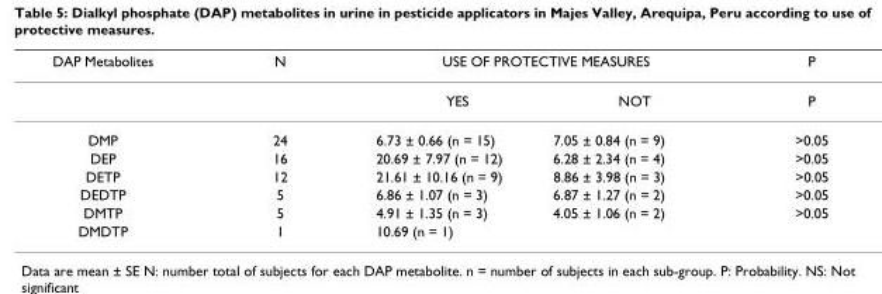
<table><thead><tr><td rowspan="2">DAP Metabolites</td><td rowspan="2">N</td><td colspan="2">USE OF PROTECTIVE MEASURES</td><td rowspan="2">P P</td></tr><tr><td>YES</td><td>NOT</td></tr></thead><tbody><tr><td>DMP</td><td>24</td><td>6.73 ± 0.66 (n = 15)</td><td>7.05 ± 0.84 (n = 9)</td><td>&gt;0.05</td></tr><tr><td>DEP</td><td>16</td><td>20.69 ± 7.97 (n = 12)</td><td>6.28 ± 2.34 (n = 4)</td><td>&gt;0.05</td></tr><tr><td>DETP</td><td>12</td><td>21.61 ± 10.16 (n = 9)</td><td>8.86 ± 3.98 (n = 3)</td><td>&gt;0.05</td></tr><tr><td>DEDTP</td><td>5</td><td>6.86 ± 1.07 (n = 3)</td><td>6.87 ± 1.27 (n = 2)</td><td>&gt;0.05</td></tr><tr><td>DMTP</td><td>5</td><td>4.91 ± 1.35 (n = 3)</td><td>4.05 ± 1.06 (n = 2)</td><td>&gt;0.05</td></tr><tr><td>DMDTP</td><td>1</td><td>10.69 (n = 1)</td><td></td><td></td></tr></tbody></table>